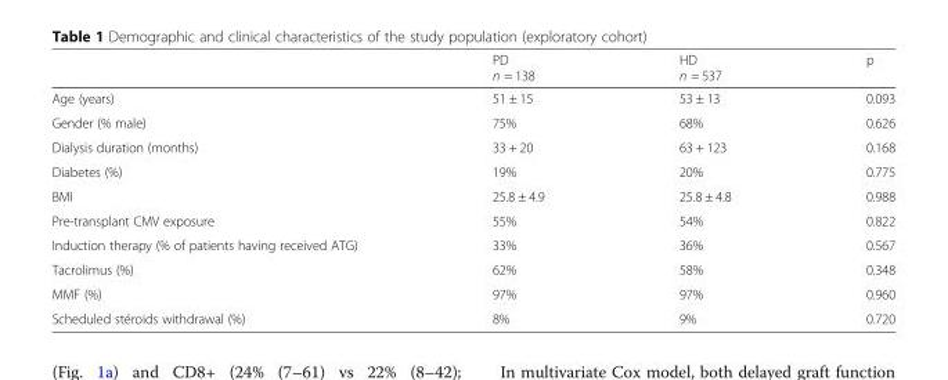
<table><thead><tr><td></td><td>PD n = 138</td><td>HD n = 537</td><td>p</td></tr></thead><tbody><tr><td>Age (years)</td><td>51 ± 15</td><td>53 ± 13</td><td>0.093</td></tr><tr><td>Gender (% male)</td><td>75%</td><td>68%</td><td>0.626</td></tr><tr><td>Dialysis duration (months)</td><td>33 + 20</td><td>63 + 123</td><td>0.168</td></tr><tr><td>Diabetes (%)</td><td>19%</td><td>20%</td><td>0.775</td></tr><tr><td>BMI</td><td>25.8 ± 4.9</td><td>25.8 ± 4.8</td><td>0.988</td></tr><tr><td>Pre-transplant CMV exposure</td><td>55%</td><td>54%</td><td>0.822</td></tr><tr><td>Induction therapy (% of patients having received ATG)</td><td>33%</td><td>36%</td><td>0.567</td></tr><tr><td>Tacrolimus (%)</td><td>62%</td><td>58%</td><td>0.348</td></tr><tr><td>MMF (%)</td><td>97%</td><td>97%</td><td>0.960</td></tr><tr><td>Scheduled stéroids withdrawal (%)</td><td>8%</td><td>9%</td><td>0.720</td></tr></tbody></table>